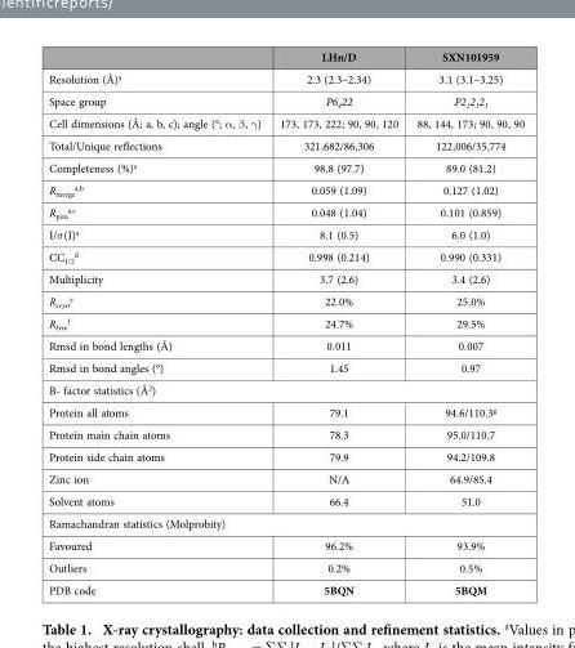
<table><thead><tr><td></td><td>LHn/D</td><td>SXN101959</td></tr></thead><tbody><tr><td>Resolution (Å)<sup>a</sup></td><td>2.3 (2.3–2.34)</td><td>3.1 (3.1–3.25)</td></tr><tr><td>Space group</td><td>P6<sub>4</sub>22</td><td>P2<sub>1</sub>2<sub>1</sub>2<sub>1</sub></td></tr><tr><td>Cell dimensions (Å; a, b, c); angle (°; α , β , γ )</td><td>173, 173, 222; 90, 90, 120</td><td>88, 144, 173; 90, 90, 90</td></tr><tr><td>Total/Unique reflections</td><td>321,682/86,306</td><td>122,006/35,774</td></tr><tr><td>Completeness (%)<sup>a</sup></td><td>98.8 (97.7)</td><td>89.0 (81.2)</td></tr><tr><td>R<sub>merge</sub> <sup>a</sup>,<sup>b</sup></td><td>0.059 (1.09)</td><td>0.127 (1.02)</td></tr><tr><td>R<sub>pim</sub> <sup>a</sup>,<sup>c</sup></td><td>0.048 (1.04)</td><td>0.101 (0.859)</td></tr><tr><td>I/σ (I)<sup>a</sup></td><td>8.1 (0.5)</td><td>6.0 (1.0)</td></tr><tr><td>CC<sub>1/2</sub> <sup>d</sup></td><td>0.998 (0.214)</td><td>0.990 (0.331)</td></tr><tr><td>Multiplicity</td><td>3.7 (2.6)</td><td>3.4 (2.6)</td></tr><tr><td>R<sub>cryst</sub> <sup>e</sup></td><td>22.0%</td><td>25.0%</td></tr><tr><td>R<sub>free</sub> <sup>f</sup></td><td>24.7%</td><td>29.5%</td></tr><tr><td>Rmsd in bond lengths (Å)</td><td>0.011</td><td>0.007</td></tr><tr><td>Rmsd in bond angles (°)</td><td>1.45</td><td>0.97</td></tr><tr><td colspan="3">B- factor statistics (Å<sup>2</sup>)</td></tr><tr><td>Protein all atoms</td><td>79.1</td><td>94.6/110.3<sup>g</sup></td></tr><tr><td>Protein main chain atoms</td><td>78.3</td><td>95.0/110.7</td></tr><tr><td>Protein side chain atoms</td><td>79.9</td><td>94.2/109.8</td></tr><tr><td>Zinc ion</td><td>N/A</td><td>64.9/85.4</td></tr><tr><td>Solvent atoms</td><td>66.4</td><td>51.0</td></tr><tr><td colspan="3">Ramachandran statistics (Molprobity)</td></tr><tr><td>Favoured</td><td>96.2%</td><td>93.9%</td></tr><tr><td>Outliers</td><td>0.2%</td><td>0.5%</td></tr><tr><td>PDB code</td><td>5BQN</td><td>5BQM</td></tr></tbody></table>